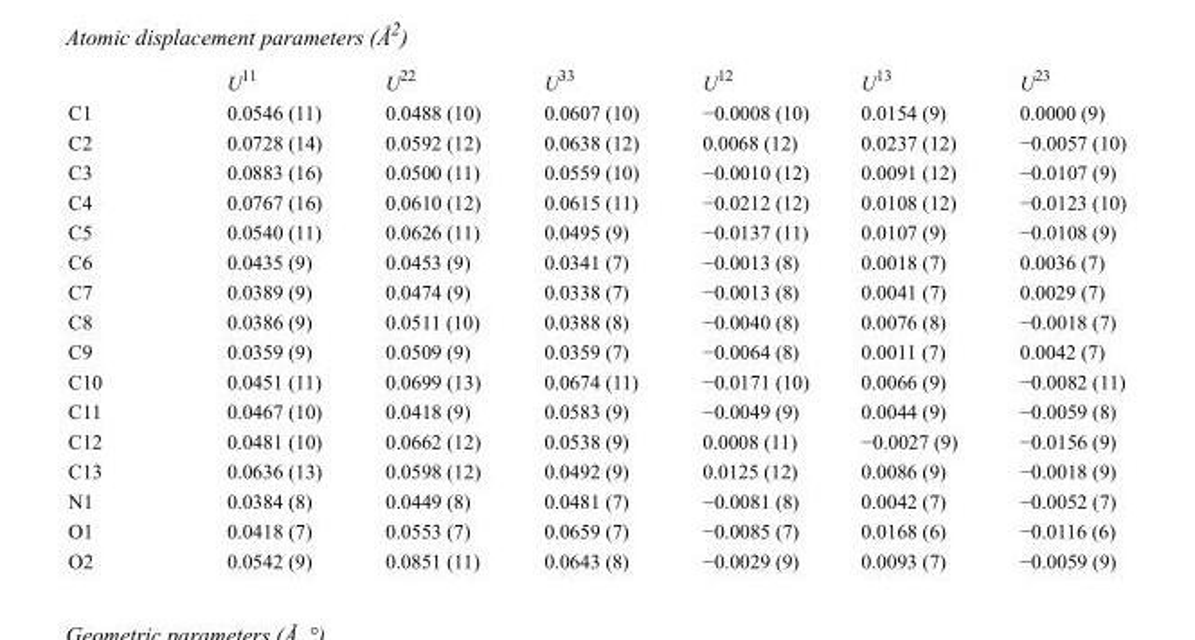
<table><thead><tr><td></td><td>U<sup>11</sup></td><td>U<sup>22</sup></td><td>U<sup>33</sup></td><td>U<sup>12</sup></td><td>U<sup>13</sup></td><td>U<sup>23</sup></td></tr></thead><tbody><tr><td>C1</td><td>0.0546 (11)</td><td>0.0488 (10)</td><td>0.0607 (10)</td><td>−0.0008 (10)</td><td>0.0154 (9)</td><td>0.0000 (9)</td></tr><tr><td>C2</td><td>0.0728 (14)</td><td>0.0592 (12)</td><td>0.0638 (12)</td><td>0.0068 (12)</td><td>0.0237 (12)</td><td>−0.0057 (10)</td></tr><tr><td>C3</td><td>0.0883 (16)</td><td>0.0500 (11)</td><td>0.0559 (10)</td><td>−0.0010 (12)</td><td>0.0091 (12)</td><td>−0.0107 (9)</td></tr><tr><td>C4</td><td>0.0767 (16)</td><td>0.0610 (12)</td><td>0.0615 (11)</td><td>−0.0212 (12)</td><td>0.0108 (12)</td><td>−0.0123 (10)</td></tr><tr><td>C5</td><td>0.0540 (11)</td><td>0.0626 (11)</td><td>0.0495 (9)</td><td>−0.0137 (11)</td><td>0.0107 (9)</td><td>−0.0108 (9)</td></tr><tr><td>C6</td><td>0.0435 (9)</td><td>0.0453 (9)</td><td>0.0341 (7)</td><td>−0.0013 (8)</td><td>0.0018 (7)</td><td>0.0036 (7)</td></tr><tr><td>C7</td><td>0.0389 (9)</td><td>0.0474 (9)</td><td>0.0338 (7)</td><td>−0.0013 (8)</td><td>0.0041 (7)</td><td>0.0029 (7)</td></tr><tr><td>C8</td><td>0.0386 (9)</td><td>0.0511 (10)</td><td>0.0388 (8)</td><td>−0.0040 (8)</td><td>0.0076 (8)</td><td>−0.0018 (7)</td></tr><tr><td>C9</td><td>0.0359 (9)</td><td>0.0509 (9)</td><td>0.0359 (7)</td><td>−0.0064 (8)</td><td>0.0011 (7)</td><td>0.0042 (7)</td></tr><tr><td>C10</td><td>0.0451 (11)</td><td>0.0699 (13)</td><td>0.0674 (11)</td><td>−0.0171 (10)</td><td>0.0066 (9)</td><td>−0.0082 (11)</td></tr><tr><td>C11</td><td>0.0467 (10)</td><td>0.0418 (9)</td><td>0.0583 (9)</td><td>−0.0049 (9)</td><td>0.0044 (9)</td><td>−0.0059 (8)</td></tr><tr><td>C12</td><td>0.0481 (10)</td><td>0.0662 (12)</td><td>0.0538 (9)</td><td>0.0008 (11)</td><td>−0.0027 (9)</td><td>−0.0156 (9)</td></tr><tr><td>C13</td><td>0.0636 (13)</td><td>0.0598 (12)</td><td>0.0492 (9)</td><td>0.0125 (12)</td><td>0.0086 (9)</td><td>−0.0018 (9)</td></tr><tr><td>N1</td><td>0.0384 (8)</td><td>0.0449 (8)</td><td>0.0481 (7)</td><td>−0.0081 (8)</td><td>0.0042 (7)</td><td>−0.0052 (7)</td></tr><tr><td>O1</td><td>0.0418 (7)</td><td>0.0553 (7)</td><td>0.0659 (7)</td><td>−0.0085 (7)</td><td>0.0168 (6)</td><td>−0.0116 (6)</td></tr><tr><td>O2</td><td>0.0542 (9)</td><td>0.0851 (11)</td><td>0.0643 (8)</td><td>−0.0029 (9)</td><td>0.0093 (7)</td><td>−0.0059 (9)</td></tr></tbody></table>